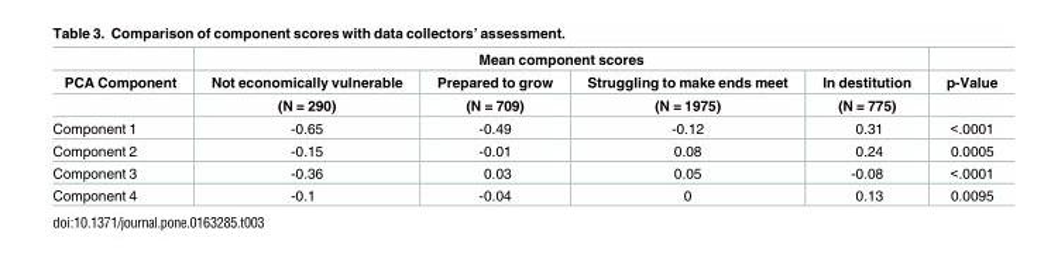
<table><thead><tr><td rowspan="3">PCA Component</td><td colspan="4">Mean component scores</td><td rowspan="3">p-Value</td></tr><tr><td rowspan="2">Not economically vulnerable (N = 290)</td><td rowspan="2">Prepared to grow (N = 709)</td><td rowspan="2">Struggling to make ends meet (N = 1975)</td><td rowspan="2">In destitution (N = 775)</td></tr><tr></tr></thead><tbody><tr><td>Component 1</td><td>-0.65</td><td>-0.49</td><td>-0.12</td><td>0.31</td><td>&lt;.0001</td></tr><tr><td>Component 2</td><td>-0.15</td><td>-0.01</td><td>0.08</td><td>0.24</td><td>0.0005</td></tr><tr><td>Component 3</td><td>-0.36</td><td>0.03</td><td>0.05</td><td>-0.08</td><td>&lt;.0001</td></tr><tr><td>Component 4</td><td>-0.1</td><td>-0.04</td><td>0</td><td>0.13</td><td>0.0095</td></tr></tbody></table>